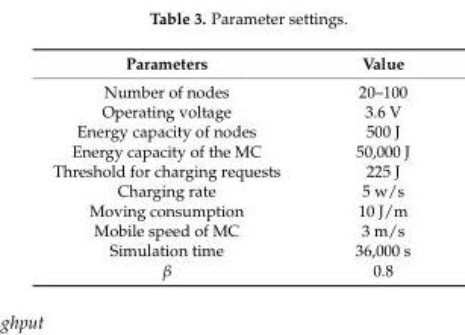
<table><thead><tr><td>Parameters</td><td>Value</td></tr></thead><tbody><tr><td>Number of nodes</td><td>20–100</td></tr><tr><td>Operating voltage</td><td>3.6 V</td></tr><tr><td>Energy capacity of nodes</td><td>500 J</td></tr><tr><td>Energy capacity of the MC</td><td>50,000 J</td></tr><tr><td>Threshold for charging requests</td><td>225 J</td></tr><tr><td>Charging rate</td><td>5 w/s</td></tr><tr><td>Moving consumption</td><td>10 J/m</td></tr><tr><td>Mobile speed of MC</td><td>3 m/s</td></tr><tr><td>Simulation time</td><td>36,000 s</td></tr><tr><td>β</td><td>0.8</td></tr></tbody></table>